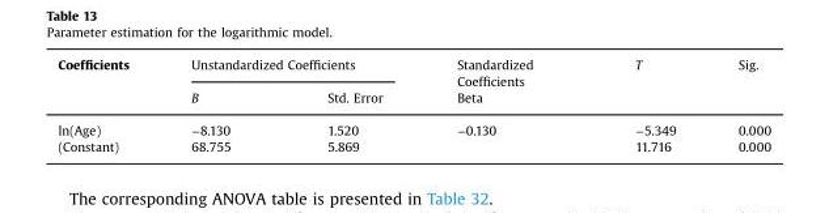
<table><thead><tr><td rowspan="2">Coefficients</td><td colspan="2">Unstandardized Coefficients</td><td rowspan="2">Standardized Coefficients Beta</td><td rowspan="2">T</td><td rowspan="2">Sig.</td></tr><tr><td>B</td><td>Std. Error</td></tr></thead><tbody><tr><td>ln(Age)</td><td>−8.130</td><td>1.520</td><td>−0.130</td><td>−5.349</td><td>0.000</td></tr><tr><td>(Constant)</td><td>68.755</td><td>5.869</td><td></td><td>11.716</td><td>0.000</td></tr></tbody></table>